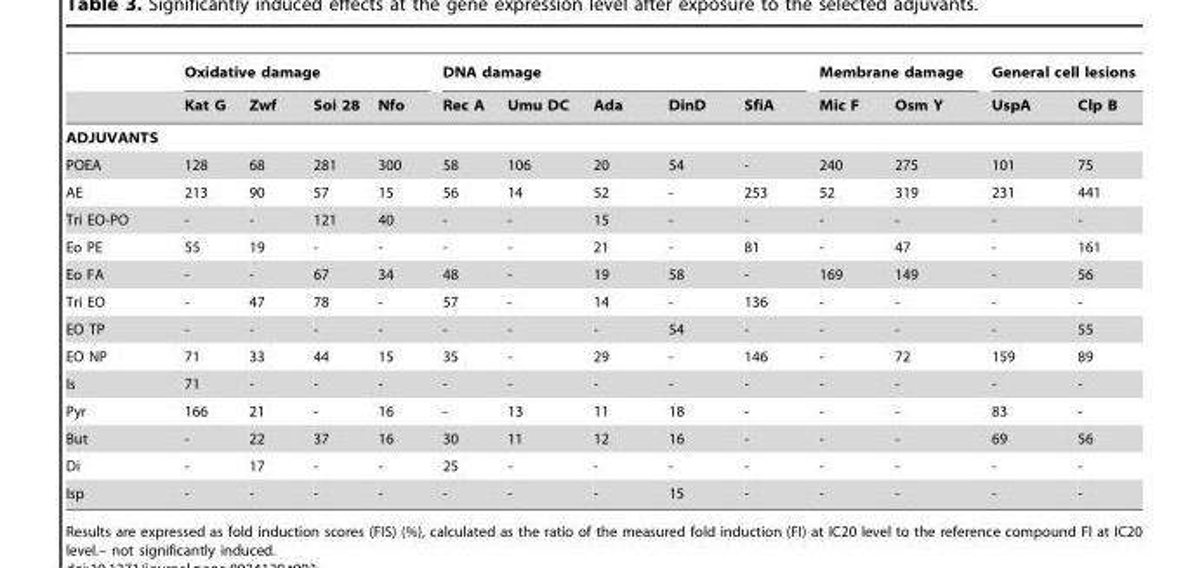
<table><thead><tr><td rowspan="2"></td><td colspan="4">Oxidative damage</td><td colspan="5">DNA damage</td><td colspan="2">Membrane damage</td><td colspan="2">General cell lesions</td></tr><tr><td>Kat G</td><td>Zwf</td><td>Soi 28</td><td>Nfo</td><td>Rec A</td><td>Umu DC</td><td>Ada</td><td>DinD</td><td>SfiA</td><td>Mic F</td><td>Osm Y</td><td>UspA</td><td>Clp B</td></tr></thead><tbody><tr><td colspan="14">ADJUVANTS</td></tr><tr><td>POEA</td><td>128</td><td>68</td><td>281</td><td>300</td><td>58</td><td>106</td><td>20</td><td>54</td><td>-</td><td>240</td><td>275</td><td>101</td><td>75</td></tr><tr><td>AE</td><td>213</td><td>90</td><td>57</td><td>15</td><td>56</td><td>14</td><td>52</td><td>-</td><td>253</td><td>52</td><td>319</td><td>231</td><td>441</td></tr><tr><td>Tri EO-PO</td><td>-</td><td>-</td><td>121</td><td>40</td><td>-</td><td>-</td><td>15</td><td>-</td><td>-</td><td>-</td><td>-</td><td>-</td><td>-</td></tr><tr><td>Eo PE</td><td>55</td><td>19</td><td>-</td><td>-</td><td>-</td><td>-</td><td>21</td><td>-</td><td>81</td><td>-</td><td>47</td><td>-</td><td>161</td></tr><tr><td>Eo FA</td><td>-</td><td>-</td><td>67</td><td>34</td><td>48</td><td>-</td><td>19</td><td>58</td><td>-</td><td>169</td><td>149</td><td>-</td><td>56</td></tr><tr><td>Tri EO</td><td>-</td><td>47</td><td>78</td><td>-</td><td>57</td><td>-</td><td>14</td><td>-</td><td>136</td><td>-</td><td>-</td><td>-</td><td>-</td></tr><tr><td>EO TP</td><td>-</td><td>-</td><td>-</td><td>-</td><td>-</td><td>-</td><td>-</td><td>54</td><td>-</td><td>-</td><td>-</td><td>-</td><td>55</td></tr><tr><td>EO NP</td><td>71</td><td>33</td><td>44</td><td>15</td><td>35</td><td>-</td><td>29</td><td>-</td><td>146</td><td>-</td><td>72</td><td>159</td><td>89</td></tr><tr><td>Is</td><td>71</td><td>-</td><td>-</td><td>-</td><td>-</td><td>-</td><td>-</td><td>-</td><td>-</td><td>-</td><td>-</td><td>-</td><td>-</td></tr><tr><td>Pyr</td><td>166</td><td>21</td><td>-</td><td>16</td><td>-</td><td>13</td><td>11</td><td>18</td><td>-</td><td>-</td><td>-</td><td>83</td><td>-</td></tr><tr><td>But</td><td>-</td><td>22</td><td>37</td><td>16</td><td>30</td><td>11</td><td>12</td><td>16</td><td>-</td><td>-</td><td>-</td><td>69</td><td>56</td></tr><tr><td>Di</td><td>-</td><td>17</td><td>-</td><td>-</td><td>25</td><td>-</td><td>-</td><td>-</td><td>-</td><td>-</td><td>-</td><td>-</td><td>-</td></tr><tr><td>Isp</td><td>-</td><td>-</td><td>-</td><td>-</td><td>-</td><td>-</td><td>-</td><td>15</td><td>-</td><td>-</td><td>-</td><td>-</td><td>-</td></tr></tbody></table>